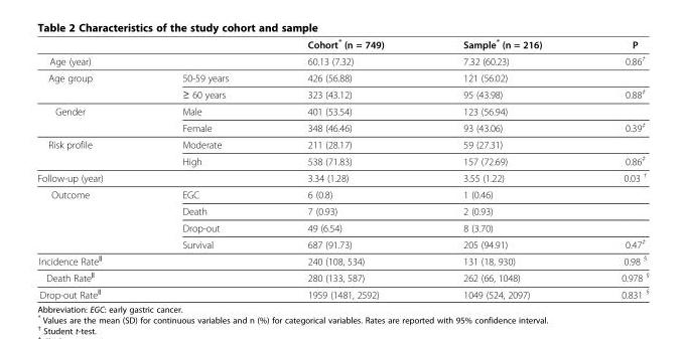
<table><thead><tr><td></td><td></td><td>Cohort* (n = 749)</td><td>Sample* (n = 216)</td><td>P</td></tr></thead><tbody><tr><td>Age (year)</td><td></td><td>60.13 (7.32)</td><td>7.32 (60.23)</td><td>0.86<sup>†</sup></td></tr><tr><td rowspan="2">Age group</td><td>50-59 years</td><td>426 (56.88)</td><td>121 (56.02)</td><td></td></tr><tr><td>≥ 60 years</td><td>323 (43.12)</td><td>95 (43.98)</td><td>0.88<sup>‡</sup></td></tr><tr><td rowspan="2">Gender</td><td>Male</td><td>401 (53.54)</td><td>123 (56.94)</td><td></td></tr><tr><td>Female</td><td>348 (46.46)</td><td>93 (43.06)</td><td>0.39<sup>‡</sup></td></tr><tr><td rowspan="2">Risk profile</td><td>Moderate</td><td>211 (28.17)</td><td>59 (27.31)</td><td></td></tr><tr><td>High</td><td>538 (71.83)</td><td>157 (72.69)</td><td>0.86<sup>‡</sup></td></tr><tr><td>Follow-up (year)</td><td></td><td>3.34 (1.28)</td><td>3.55 (1.22)</td><td>0.03 <sup>†</sup></td></tr><tr><td rowspan="4">Outcome</td><td>EGC</td><td>6 (0.8)</td><td>1 (0.46)</td><td></td></tr><tr><td>Death</td><td>7 (0.93)</td><td>2 (0.93)</td><td></td></tr><tr><td>Drop-out</td><td>49 (6.54)</td><td>8 (3.70)</td><td></td></tr><tr><td>Survival</td><td>687 (91.73)</td><td>205 (94.91)</td><td>0.47<sup>‡</sup></td></tr><tr><td>Incidence Rate<sup>‖</sup></td><td></td><td>240 (108, 534)</td><td>131 (18, 930)</td><td>0.98 <sup>§</sup></td></tr><tr><td>Death Rate<sup>‖</sup></td><td></td><td>280 (133, 587)</td><td>262 (66, 1048)</td><td>0.978 <sup>§</sup></td></tr><tr><td>Drop-out Rate<sup>‖</sup></td><td></td><td>1959 (1481, 2592)</td><td>1049 (524, 2097)</td><td>0.831 <sup>§</sup></td></tr></tbody></table>